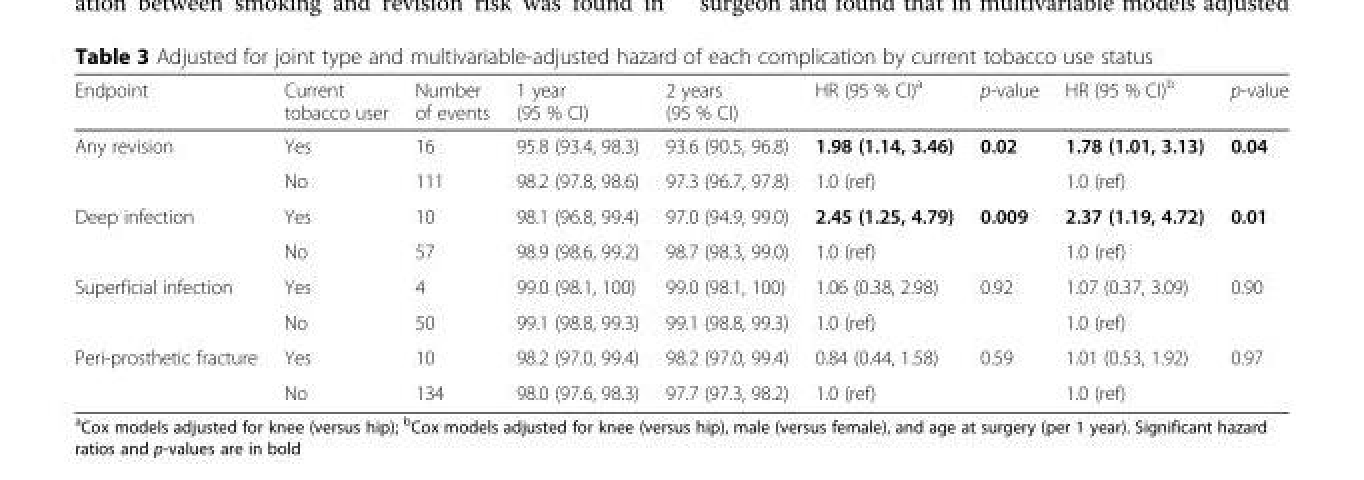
<table><thead><tr><td>Endpoint</td><td>Current tobacco user</td><td>Number of events</td><td>1 year (95 % CI)</td><td>2 years (95 % CI)</td><td>HR (95 % CI)<sup>a</sup></td><td>p-value</td><td>HR (95 % CI)<sup>b</sup></td><td>p-value</td></tr></thead><tbody><tr><td rowspan="2">Any revision</td><td>Yes</td><td>16</td><td>95.8 (93.4, 98.3)</td><td>93.6 (90.5, 96.8)</td><td>1.98 (1.14, 3.46)</td><td>0.02</td><td>1.78 (1.01, 3.13)</td><td>0.04</td></tr><tr><td>No</td><td>111</td><td>98.2 (97.8, 98.6)</td><td>97.3 (96.7, 97.8)</td><td>1.0 (ref)</td><td></td><td>1.0 (ref)</td><td></td></tr><tr><td rowspan="2">Deep infection</td><td>Yes</td><td>10</td><td>98.1 (96.8, 99.4)</td><td>97.0 (94.9, 99.0)</td><td>2.45 (1.25, 4.79)</td><td>0.009</td><td>2.37 (1.19, 4.72)</td><td>0.01</td></tr><tr><td>No</td><td>57</td><td>98.9 (98.6, 99.2)</td><td>98.7 (98.3, 99.0)</td><td>1.0 (ref)</td><td></td><td>1.0 (ref)</td><td></td></tr><tr><td rowspan="2">Superficial infection</td><td>Yes</td><td>4</td><td>99.0 (98.1, 100)</td><td>99.0 (98.1, 100)</td><td>1.06 (0.38, 2.98)</td><td>0.92</td><td>1.07 (0.37, 3.09)</td><td>0.90</td></tr><tr><td>No</td><td>50</td><td>99.1 (98.8, 99.3)</td><td>99.1 (98.8, 99.3)</td><td>1.0 (ref)</td><td></td><td>1.0 (ref)</td><td></td></tr><tr><td rowspan="2">Peri-prosthetic fracture</td><td>Yes</td><td>10</td><td>98.2 (97.0, 99.4)</td><td>98.2 (97.0, 99.4)</td><td>0.84 (0.44, 1.58)</td><td>0.59</td><td>1.01 (0.53, 1.92)</td><td>0.97</td></tr><tr><td>No</td><td>134</td><td>98.0 (97.6, 98.3)</td><td>97.7 (97.3, 98.2)</td><td>1.0 (ref)</td><td></td><td>1.0 (ref)</td><td></td></tr></tbody></table>